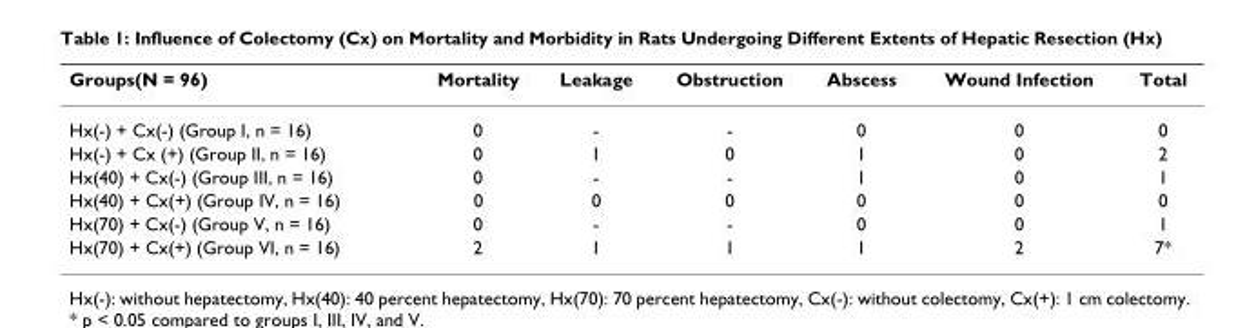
<table><thead><tr><td>Groups(N = 96)</td><td>Mortality</td><td>Leakage</td><td>Obstruction</td><td>Abscess</td><td>Wound Infection</td><td>Total</td></tr></thead><tbody><tr><td>Hx(-) + Cx(-) (Group I, n = 16)</td><td>0</td><td>-</td><td>-</td><td>0</td><td>0</td><td>0</td></tr><tr><td>Hx(-) + Cx (+) (Group II, n = 16)</td><td>0</td><td>1</td><td>0</td><td>1</td><td>0</td><td>2</td></tr><tr><td>Hx(40) + Cx(-) (Group III, n = 16)</td><td>0</td><td>-</td><td>-</td><td>1</td><td>0</td><td>1</td></tr><tr><td>Hx(40) + Cx(+) (Group IV, n = 16)</td><td>0</td><td>0</td><td>0</td><td>0</td><td>0</td><td>0</td></tr><tr><td>Hx(70) + Cx(-) (Group V, n = 16)</td><td>0</td><td>-</td><td>-</td><td>0</td><td>0</td><td>1</td></tr><tr><td>Hx(70) + Cx(+) (Group VI, n = 16)</td><td>2</td><td>1</td><td>1</td><td>1</td><td>2</td><td>7*</td></tr></tbody></table>